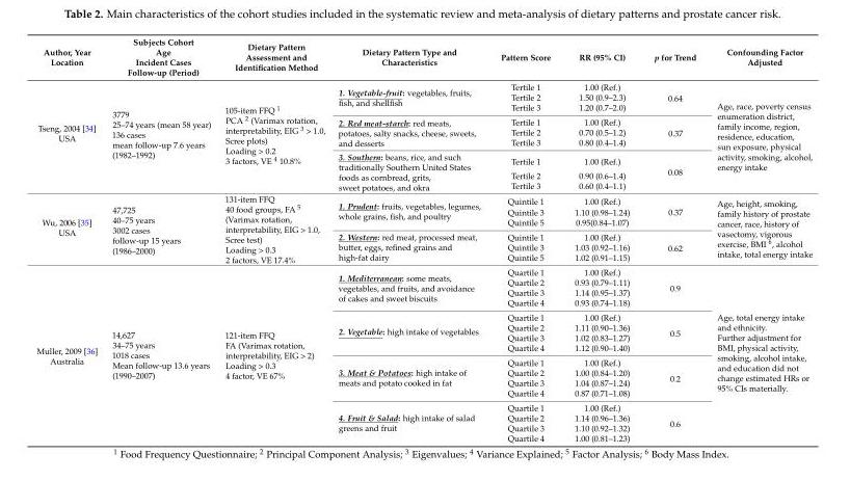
<table><thead><tr><td>Author, Year Location</td><td>Subjects Cohort Age Incident Cases Follow-up (Period)</td><td>Dietary Pattern Assessment and Identification Method</td><td>Dietary Pattern Type and Characteristics</td><td>Pattern Score</td><td>RR (95% CI)</td><td>p for Trend</td><td>Confounding Factor Adjusted</td></tr></thead><tbody><tr><td rowspan="9">Tseng, 2004 [34] USA</td><td rowspan="9">3779 25–74 years (mean 58 year) 136 cases mean follow-up 7.6 years (1982–1992)</td><td rowspan="9">105-item FFQ <sup>1</sup> PCA <sup>2</sup> (Varimax rotation, interpretability, EIG <sup>3</sup> &gt; 1.0, Scree plots) Loading &gt; 0.2 3 factors, VE <sup>4</sup> 10.8%</td><td rowspan="3">1. Vegetable-fruit: vegetables, fruits, fish, and shellfish</td><td>Tertile 1</td><td>1.00 (Ref.)</td><td rowspan="3">0.64</td><td rowspan="9">Age, race, poverty census enumeration district, family income, region, residence, education, sun exposure, physical activity, smoking, alcohol, energy intake</td></tr><tr><td>Tertile 2</td><td>1.50 (0.9–2.3)</td></tr><tr><td>Tertile 3</td><td>1.20 (0.7–2.0)</td></tr><tr><td rowspan="3">2. Red meat-starch: red meats, potatoes, salty snacks, cheese, sweets, and desserts</td><td>Tertile 1</td><td>1.00 (Ref.)</td><td rowspan="3">0.37</td></tr><tr><td>Tertile 2</td><td>0.70 (0.5–1.2)</td></tr><tr><td>Tertile 3</td><td>0.80 (0.4–1.4)</td></tr><tr><td rowspan="3">3. Southern: beans, rice, and such traditionally Southern United States foods as cornbread, grits, sweet potatoes, and okra</td><td>Tertile 1</td><td>1.00 (Ref.)</td><td rowspan="3">0.08</td></tr><tr><td>Tertile 2</td><td>0.90 (0.6–1.4)</td></tr><tr><td>Tertile 3</td><td>0.60 (0.4–1.1)</td></tr><tr><td rowspan="6">Wu, 2006 [35] USA</td><td rowspan="6">47,725 40–75 years 3002 cases follow-up 15 years (1986–2000)</td><td rowspan="6">131-item FFQ 40 food groups, FA <sup>5</sup> (Varimax rotation, interpretability, EIG &gt; 1.0, Scree test) Loading &gt; 0.3 2 factors, VE 17.4%</td><td rowspan="3">1. Prudent: fruits, vegetables, legumes, whole grains, fish, and poultry</td><td>Quintile 1</td><td>1.00 (Ref.)</td><td rowspan="3">0.37</td><td rowspan="6">Age, height, smoking, family history of prostate cancer, race, history of vasectomy, vigorous exercise, BMI <sup>6</sup>, alcohol intake, total energy intake</td></tr><tr><td>Quintile 3</td><td>1.10 (0.98–1.24)</td></tr><tr><td>Quintile 5</td><td>0.95(0.84–1.07)</td></tr><tr><td rowspan="3">2. Western: red meat, processed meat, butter, eggs, refined grains and high-fat dairy</td><td>Quintile 1</td><td>1.00 (Ref.)</td><td rowspan="3">0.62</td></tr><tr><td>Quintile 3</td><td>1.03 (0.92–1.16)</td></tr><tr><td>Quintile 5</td><td>1.02 (0.91–1.15)</td></tr><tr><td rowspan="16">Muller, 2009 [36] Australia</td><td rowspan="16">14,627 34–75 years 1018 cases Mean follow-up 13.6 years (1990–2007)</td><td rowspan="16">121-item FFQ FA (Varimax rotation, interpretability, EIG &gt; 2) Loading &gt; 0.3 4 factor, VE 67%</td><td rowspan="4">1. Mediterranean: some meats, vegetables, and fruits, and avoidance of cakes and sweet biscuits</td><td>Quartile 1</td><td>1.00 (Ref.)</td><td rowspan="4">0.9</td><td rowspan="16">Age, total energy intake and ethnicity. Further adjustment for BMI, physical activity, smoking, alcohol intake, and education did not change estimated HRs or 95% CIs materially.</td></tr><tr><td>Quartile 2</td><td>0.93 (0.79–1.11)</td></tr><tr><td>Quartile 3</td><td>1.14 (0.95–1.37)</td></tr><tr><td>Quartile 4</td><td>0.93 (0.74–1.18)</td></tr><tr><td rowspan="4">2. Vegetable: high intake of vegetables</td><td>Quartile 1</td><td>1.00 (Ref.)</td><td rowspan="4">0.5</td></tr><tr><td>Quartile 2</td><td>1.11 (0.90–1.36)</td></tr><tr><td>Quartile 3</td><td>1.02 (0.83–1.27)</td></tr><tr><td>Quartile 4</td><td>1.12 (0.90–1.40)</td></tr><tr><td rowspan="4">3. Meat &amp; Potatoes: high intake of meats and potato cooked in fat</td><td>Quartile 1</td><td>1.00 (Ref.)</td><td rowspan="4">0.2</td></tr><tr><td>Quartile 2</td><td>1.00 (0.84–1.20)</td></tr><tr><td>Quartile 3</td><td>1.04 (0.87–1.24)</td></tr><tr><td>Quartile 4</td><td>0.87 (0.71–1.08)</td></tr><tr><td rowspan="4">4. Fruit &amp; Salad: high intake of salad greens and fruit</td><td>Quartile 1</td><td>1.00 (Ref.)</td><td rowspan="4">0.6</td></tr><tr><td>Quartile 2</td><td>1.14 (0.96–1.36)</td></tr><tr><td>Quartile 3</td><td>1.10 (0.92–1.32)</td></tr><tr><td>Quartile 4</td><td>1.00 (0.81–1.23)</td></tr></tbody></table>